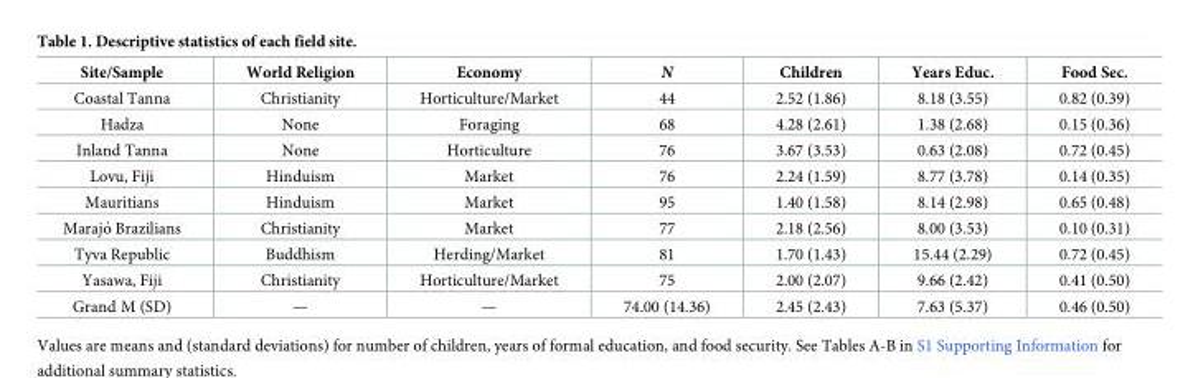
<table><thead><tr><td>Site/Sample</td><td>World Religion</td><td>Economy</td><td>N</td><td>Children</td><td>Years Educ.</td><td>Food Sec.</td></tr></thead><tbody><tr><td>Coastal Tanna</td><td>Christianity</td><td>Horticulture/Market</td><td>44</td><td>2.52 (1.86)</td><td>8.18 (3.55)</td><td>0.82 (0.39)</td></tr><tr><td>Hadza</td><td>None</td><td>Foraging</td><td>68</td><td>4.28 (2.61)</td><td>1.38 (2.68)</td><td>0.15 (0.36)</td></tr><tr><td>Inland Tanna</td><td>None</td><td>Horticulture</td><td>76</td><td>3.67 (3.53)</td><td>0.63 (2.08)</td><td>0.72 (0.45)</td></tr><tr><td>Lovu, Fiji</td><td>Hinduism</td><td>Market</td><td>76</td><td>2.24 (1.59)</td><td>8.77 (3.78)</td><td>0.14 (0.35)</td></tr><tr><td>Mauritians</td><td>Hinduism</td><td>Market</td><td>95</td><td>1.40 (1.58)</td><td>8.14 (2.98)</td><td>0.65 (0.48)</td></tr><tr><td>Marajo´ Brazilians</td><td>Christianity</td><td>Market</td><td>77</td><td>2.18 (2.56)</td><td>8.00 (3.53)</td><td>0.10 (0.31)</td></tr><tr><td>Tyva Republic</td><td>Buddhism</td><td>Herding/Market</td><td>81</td><td>1.70 (1.43)</td><td>15.44 (2.29)</td><td>0.72 (0.45)</td></tr><tr><td>Yasawa, Fiji</td><td>Christianity</td><td>Horticulture/Market</td><td>75</td><td>2.00 (2.07)</td><td>9.66 (2.42)</td><td>0.41 (0.50)</td></tr><tr><td>Grand M (SD)</td><td>—</td><td>—</td><td>74.00 (14.36)</td><td>2.45 (2.43)</td><td>7.63 (5.37)</td><td>0.46 (0.50)</td></tr></tbody></table>